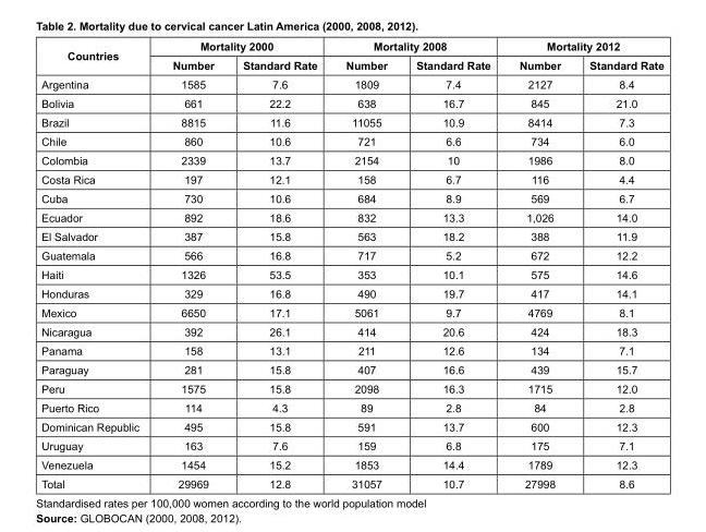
<table><thead><tr><td rowspan="2">Countries</td><td colspan="2">Mortality 2000</td><td colspan="2">Mortality 2008</td><td colspan="2">Mortality 2012</td></tr><tr><td>Number</td><td>Standard Rate</td><td>Number</td><td>Standard Rate</td><td>Number</td><td>Standard Rate</td></tr></thead><tbody><tr><td>Argentina</td><td>1585</td><td>7.6</td><td>1809</td><td>7.4</td><td>2127</td><td>8.4</td></tr><tr><td>Bolivia</td><td>661</td><td>22.2</td><td>638</td><td>16.7</td><td>845</td><td>21.0</td></tr><tr><td>Brazil</td><td>8815</td><td>11.6</td><td>11055</td><td>10.9</td><td>8414</td><td>7.3</td></tr><tr><td>Chile</td><td>860</td><td>10.6</td><td>721</td><td>6.6</td><td>734</td><td>6.0</td></tr><tr><td>Colombia</td><td>2339</td><td>13.7</td><td>2154</td><td>10</td><td>1986</td><td>8.0</td></tr><tr><td>Costa Rica</td><td>197</td><td>12.1</td><td>158</td><td>6.7</td><td>116</td><td>4.4</td></tr><tr><td>Cuba</td><td>730</td><td>10.6</td><td>684</td><td>8.9</td><td>569</td><td>6.7</td></tr><tr><td>Ecuador</td><td>892</td><td>18.6</td><td>832</td><td>13.3</td><td>1,026</td><td>14.0</td></tr><tr><td>El Salvador</td><td>387</td><td>15.8</td><td>563</td><td>18.2</td><td>388</td><td>11.9</td></tr><tr><td>Guatemala</td><td>566</td><td>16.8</td><td>717</td><td>5.2</td><td>672</td><td>12.2</td></tr><tr><td>Haiti</td><td>1326</td><td>53.5</td><td>353</td><td>10.1</td><td>575</td><td>14.6</td></tr><tr><td>Honduras</td><td>329</td><td>16.8</td><td>490</td><td>19.7</td><td>417</td><td>14.1</td></tr><tr><td>Mexico</td><td>6650</td><td>17.1</td><td>5061</td><td>9.7</td><td>4769</td><td>8.1</td></tr><tr><td>Nicaragua</td><td>392</td><td>26.1</td><td>414</td><td>20.6</td><td>424</td><td>18.3</td></tr><tr><td>Panama</td><td>158</td><td>13.1</td><td>211</td><td>12.6</td><td>134</td><td>7.1</td></tr><tr><td>Paraguay</td><td>281</td><td>15.8</td><td>407</td><td>16.6</td><td>439</td><td>15.7</td></tr><tr><td>Peru</td><td>1575</td><td>15.8</td><td>2098</td><td>16.3</td><td>1715</td><td>12.0</td></tr><tr><td>Puerto Rico</td><td>114</td><td>4.3</td><td>89</td><td>2.8</td><td>84</td><td>2.8</td></tr><tr><td>Dominican Republic</td><td>495</td><td>15.8</td><td>591</td><td>13.7</td><td>600</td><td>12.3</td></tr><tr><td>Uruguay</td><td>163</td><td>7.6</td><td>159</td><td>6.8</td><td>175</td><td>7.1</td></tr><tr><td>Venezuela</td><td>1454</td><td>15.2</td><td>1853</td><td>14.4</td><td>1789</td><td>12.3</td></tr><tr><td>Total</td><td>29969</td><td>12.8</td><td>31057</td><td>10.7</td><td>27998</td><td>8.6</td></tr></tbody></table>